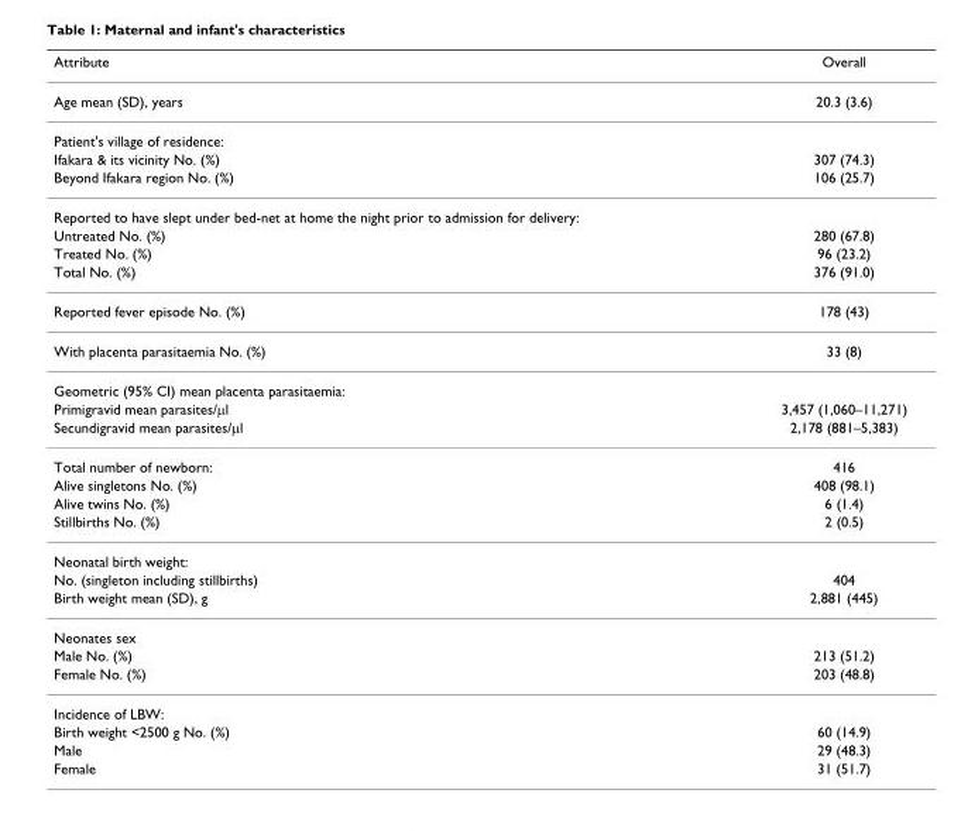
<table><thead><tr><td>Attribute</td><td>Overall</td></tr></thead><tbody><tr><td>Age mean (SD), years</td><td>20.3 (3.6)</td></tr><tr><td colspan="2">Patient&#x27;s village of residence:</td></tr><tr><td>Ifakara &amp; its vicinity No. (%)</td><td>307 (74.3)</td></tr><tr><td>Beyond Ifakara region No. (%)</td><td>106 (25.7)</td></tr><tr><td colspan="2">Reported to have slept under bed-net at home the night prior to admission for delivery:</td></tr><tr><td>Untreated No. (%)</td><td>280 (67.8)</td></tr><tr><td>Treated No. (%)</td><td>96 (23.2)</td></tr><tr><td>Total No. (%)</td><td>376 (91.0)</td></tr><tr><td>Reported fever episode No. (%)</td><td>178 (43)</td></tr><tr><td>With placenta parasitaemia No. (%)</td><td>33 (8)</td></tr><tr><td colspan="2">Geometric (95% CI) mean placenta parasitaemia:</td></tr><tr><td>Primigravid mean parasites/μl</td><td>3,457 (1,060–11,271)</td></tr><tr><td>Secundigravid mean parasites/μl</td><td>2,178 (881–5,383)</td></tr><tr><td>Total number of newborn:</td><td>416</td></tr><tr><td>Alive singletons No. (%)</td><td>408 (98.1)</td></tr><tr><td>Alive twins No. (%)</td><td>6 (1.4)</td></tr><tr><td>Stillbirths No. (%)</td><td>2 (0.5)</td></tr><tr><td colspan="2">Neonatal birth weight:</td></tr><tr><td>No. (singleton including stillbirths)</td><td>404</td></tr><tr><td>Birth weight mean (SD), g</td><td>2,881 (445)</td></tr><tr><td colspan="2">Neonates sex</td></tr><tr><td>Male No. (%)</td><td>213 (51.2)</td></tr><tr><td>Female No. (%)</td><td>203 (48.8)</td></tr><tr><td colspan="2">Incidence of LBW:</td></tr><tr><td>Birth weight &lt;2500 g No. (%)</td><td>60 (14.9)</td></tr><tr><td>Male</td><td>29 (48.3)</td></tr><tr><td>Female</td><td>31 (51.7)</td></tr></tbody></table>